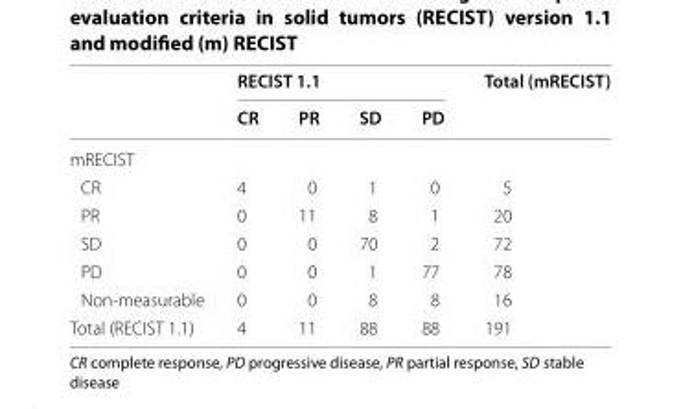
<table><thead><tr><td rowspan="2"></td><td colspan="4">RECIST 1.1</td><td rowspan="2">Total (mRECIST)</td></tr><tr><td>CR</td><td>PR</td><td>SD</td><td>PD</td></tr></thead><tbody><tr><td colspan="6">mRECIST</td></tr><tr><td>CR</td><td>4</td><td>0</td><td>1</td><td>0</td><td>5</td></tr><tr><td>PR</td><td>0</td><td>11</td><td>8</td><td>1</td><td>20</td></tr><tr><td>SD</td><td>0</td><td>0</td><td>70</td><td>2</td><td>72</td></tr><tr><td>PD</td><td>0</td><td>0</td><td>1</td><td>77</td><td>78</td></tr><tr><td>Non-measurable</td><td>0</td><td>0</td><td>8</td><td>8</td><td>16</td></tr><tr><td>Total (RECIST 1.1)</td><td>4</td><td>11</td><td>88</td><td>88</td><td>191</td></tr></tbody></table>